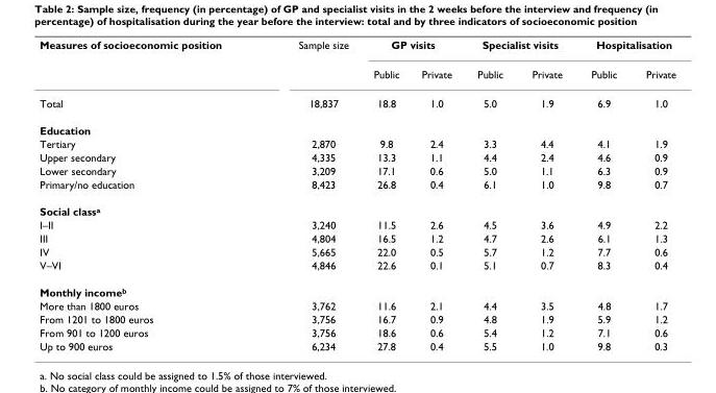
<table><tbody><tr><td rowspan="2">Measures of socioeconomic position</td><td>Sample size</td><td colspan="2">GP visits</td><td colspan="2">Specialist visits</td><td colspan="2">Hospitalisation</td></tr><tr><td></td><td>Public</td><td>Private</td><td>Public</td><td>Private</td><td>Public</td><td>Private</td></tr><tr><td>Total</td><td>18,837</td><td>18.8</td><td>1.0</td><td>5.0</td><td>1.9</td><td>6.9</td><td>1.0</td></tr><tr><td colspan="8">Education</td></tr><tr><td>Tertiary</td><td>2,870</td><td>9.8</td><td>2.4</td><td>3.3</td><td>4.4</td><td>4.1</td><td>1.9</td></tr><tr><td>Upper secondary</td><td>4,335</td><td>13.3</td><td>1.1</td><td>4.4</td><td>2.4</td><td>4.6</td><td>0.9</td></tr><tr><td>Lower secondary</td><td>3,209</td><td>17.1</td><td>0.6</td><td>5.0</td><td>1.1</td><td>6.3</td><td>0.9</td></tr><tr><td>Primary/no education</td><td>8,423</td><td>26.8</td><td>0.4</td><td>6.1</td><td>1.0</td><td>9.8</td><td>0.7</td></tr><tr><td colspan="8">Social class<sup>a</sup></td></tr><tr><td>I–II</td><td>3,240</td><td>11.5</td><td>2.6</td><td>4.5</td><td>3.6</td><td>4.9</td><td>2.2</td></tr><tr><td>III</td><td>4,804</td><td>16.5</td><td>1.2</td><td>4.7</td><td>2.6</td><td>6.1</td><td>1.3</td></tr><tr><td>IV</td><td>5,665</td><td>22.0</td><td>0.5</td><td>5.7</td><td>1.2</td><td>7.7</td><td>0.6</td></tr><tr><td>V–VI</td><td>4,846</td><td>22.6</td><td>0.1</td><td>5.1</td><td>0.7</td><td>8.3</td><td>0.4</td></tr><tr><td colspan="8">Monthly income<sup>b</sup></td></tr><tr><td>More than 1800 euros</td><td>3,762</td><td>11.6</td><td>2.1</td><td>4.4</td><td>3.5</td><td>4.8</td><td>1.7</td></tr><tr><td>From 1201 to 1800 euros</td><td>3,756</td><td>16.7</td><td>0.9</td><td>4.8</td><td>1.9</td><td>5.9</td><td>1.2</td></tr><tr><td>From 901 to 1200 euros</td><td>3,756</td><td>18.6</td><td>0.6</td><td>5.4</td><td>1.2</td><td>7.1</td><td>0.6</td></tr><tr><td>Up to 900 euros</td><td>6,234</td><td>27.8</td><td>0.4</td><td>5.5</td><td>1.0</td><td>9.8</td><td>0.3</td></tr></tbody></table>